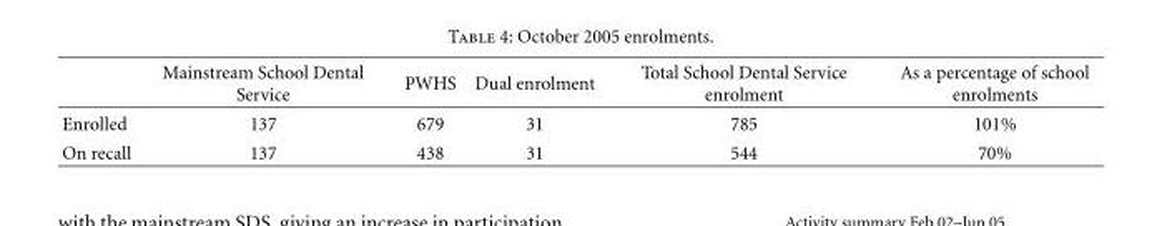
<table><thead><tr><td></td><td>Mainstream School Dental Service</td><td>PWHS</td><td>Dual enrolment</td><td>Total School Dental Service enrolment</td><td>As a percentage of school enrolments</td></tr></thead><tbody><tr><td>Enrolled</td><td>137</td><td>679</td><td>31</td><td>785</td><td>101%</td></tr><tr><td>On recall</td><td>137</td><td>438</td><td>31</td><td>544</td><td>70%</td></tr></tbody></table>